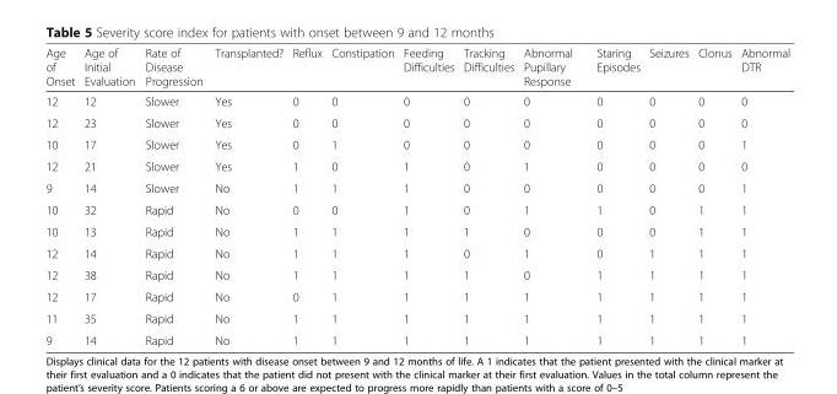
<table><thead><tr><td>Age of Onset</td><td>Age of Initial Evaluation</td><td>Rate of Disease Progression</td><td>Transplanted?</td><td>Reflux</td><td>Constipation</td><td>Feeding Difficulties</td><td>Tracking Difficulties</td><td>Abnormal Pupillary Response</td><td>Staring Episodes</td><td>Seizures</td><td>Clonus</td><td>Abnormal DTR</td></tr></thead><tbody><tr><td>12</td><td>12</td><td>Slower</td><td>Yes</td><td>0</td><td>0</td><td>0</td><td>0</td><td>0</td><td>0</td><td>0</td><td>0</td><td>0</td></tr><tr><td>12</td><td>23</td><td>Slower</td><td>Yes</td><td>0</td><td>0</td><td>0</td><td>0</td><td>0</td><td>0</td><td>0</td><td>0</td><td>0</td></tr><tr><td>10</td><td>17</td><td>Slower</td><td>Yes</td><td>0</td><td>1</td><td>0</td><td>0</td><td>0</td><td>0</td><td>0</td><td>0</td><td>1</td></tr><tr><td>12</td><td>21</td><td>Slower</td><td>Yes</td><td>1</td><td>0</td><td>1</td><td>0</td><td>1</td><td>0</td><td>0</td><td>0</td><td>0</td></tr><tr><td>9</td><td>14</td><td>Slower</td><td>No</td><td>1</td><td>1</td><td>1</td><td>0</td><td>0</td><td>0</td><td>0</td><td>0</td><td>1</td></tr><tr><td>10</td><td>32</td><td>Rapid</td><td>No</td><td>0</td><td>0</td><td>1</td><td>0</td><td>1</td><td>1</td><td>0</td><td>1</td><td>1</td></tr><tr><td>10</td><td>13</td><td>Rapid</td><td>No</td><td>1</td><td>1</td><td>1</td><td>1</td><td>0</td><td>0</td><td>0</td><td>1</td><td>1</td></tr><tr><td>12</td><td>14</td><td>Rapid</td><td>No</td><td>1</td><td>1</td><td>1</td><td>0</td><td>1</td><td>0</td><td>1</td><td>1</td><td>1</td></tr><tr><td>12</td><td>38</td><td>Rapid</td><td>No</td><td>1</td><td>1</td><td>1</td><td>1</td><td>0</td><td>1</td><td>1</td><td>1</td><td>1</td></tr><tr><td>12</td><td>17</td><td>Rapid</td><td>No</td><td>0</td><td>1</td><td>1</td><td>1</td><td>1</td><td>1</td><td>1</td><td>1</td><td>1</td></tr><tr><td>11</td><td>35</td><td>Rapid</td><td>No</td><td>1</td><td>1</td><td>1</td><td>1</td><td>1</td><td>1</td><td>1</td><td>1</td><td>1</td></tr><tr><td>9</td><td>14</td><td>Rapid</td><td>No</td><td>1</td><td>1</td><td>1</td><td>1</td><td>1</td><td>1</td><td>1</td><td>1</td><td>1</td></tr></tbody></table>